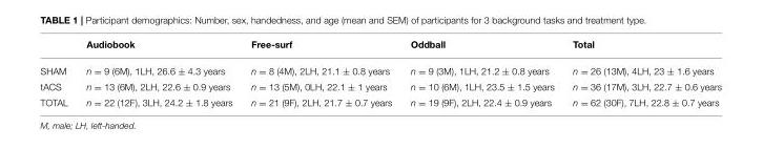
<table><thead><tr><td></td><td>Audiobook</td><td>Free-surf</td><td>Oddball</td><td>Total</td></tr></thead><tbody><tr><td>SHAM</td><td>n = 9 (6M), 1LH, 26.6 ± 4.3 years</td><td>n = 8 (4M), 2LH, 21.1 ± 0.8 years</td><td>n = 9 (3M), 1LH, 21.2 ± 0.8 years</td><td>n = 26 (13M), 4LH, 23 ± 1.6 years</td></tr><tr><td>tACS</td><td>n = 13 (6M), 2LH, 22.6 ± 0.9 years</td><td>n = 13 (5M), 0LH, 22.1 ± 1 years</td><td>n = 10 (6M), 1LH, 23.5 ± 1.5 years</td><td>n = 36 (17M), 3LH, 22.7 ± 0.6 years</td></tr><tr><td>TOTAL</td><td>n = 22 (12F), 3LH, 24.2 ± 1.8 years</td><td>n = 21 (9F), 2LH, 21.7 ± 0.7 years</td><td>n = 19 (9F), 2LH, 22.4 ± 0.9 years</td><td>n = 62 (30F), 7LH, 22.8 ± 0.7 years</td></tr></tbody></table>